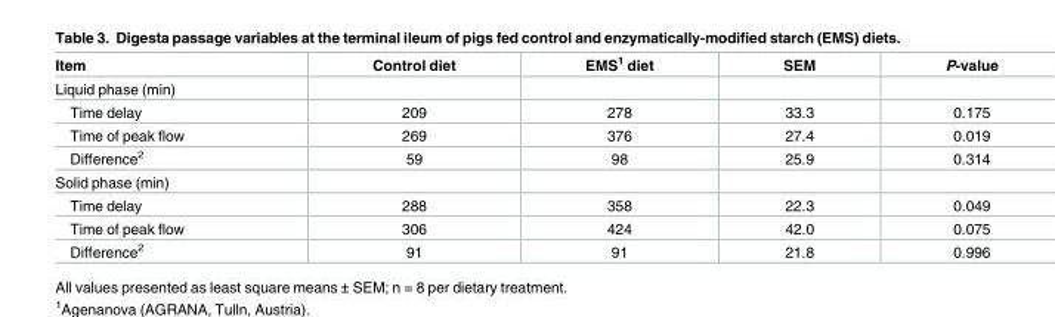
<table><thead><tr><td>Item</td><td>Control diet</td><td>EMS<sup>1</sup> diet</td><td>SEM</td><td>P-value</td></tr></thead><tbody><tr><td colspan="5">Liquid phase (min)</td></tr><tr><td>Time delay</td><td>209</td><td>278</td><td>33.3</td><td>0.175</td></tr><tr><td>Time of peak flow</td><td>269</td><td>376</td><td>27.4</td><td>0.019</td></tr><tr><td>Difference<sup>2</sup></td><td>59</td><td>98</td><td>25.9</td><td>0.314</td></tr><tr><td colspan="5">Solid phase (min)</td></tr><tr><td>Time delay</td><td>288</td><td>358</td><td>22.3</td><td>0.049</td></tr><tr><td>Time of peak flow</td><td>306</td><td>424</td><td>42.0</td><td>0.075</td></tr><tr><td>Difference<sup>2</sup></td><td>91</td><td>91</td><td>21.8</td><td>0.996</td></tr></tbody></table>